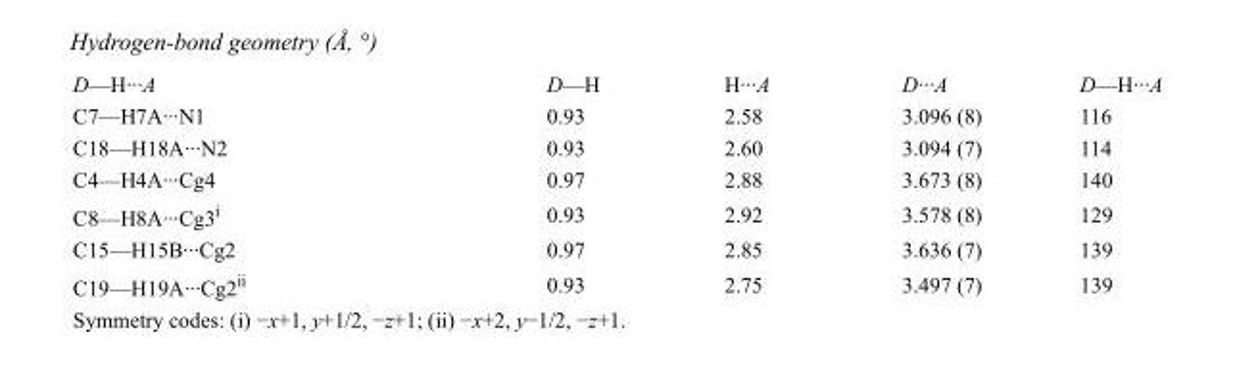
<table><tbody><tr><td>D—H···A</td><td>D—H</td><td>H···A</td><td>D···A</td><td>D—H···A</td></tr><tr><td>C7—H7A···N1</td><td>0.93</td><td>2.58</td><td>3.096 (8)</td><td>116</td></tr><tr><td>C18—H18A···N2</td><td>0.93</td><td>2.60</td><td>3.094 (7)</td><td>114</td></tr><tr><td>C4—H4A···Cg4</td><td>0.97</td><td>2.88</td><td>3.673 (8)</td><td>140</td></tr><tr><td>C8—H8A···Cg3<sup>i</sup></td><td>0.93</td><td>2.92</td><td>3.578 (8)</td><td>129</td></tr><tr><td>C15—H15B···Cg2</td><td>0.97</td><td>2.85</td><td>3.636 (7)</td><td>139</td></tr><tr><td>C19—H19A···Cg2<sup>ii</sup></td><td>0.93</td><td>2.75</td><td>3.497 (7)</td><td>139</td></tr></tbody></table>